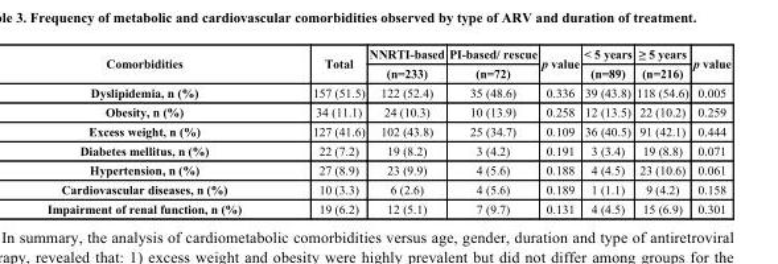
<table><thead><tr><td rowspan="2">Comorbidities</td><td rowspan="2">Total</td><td rowspan="2">NNRTI-based (n=233)</td><td rowspan="2">PI-based/ rescue (n=72)</td><td rowspan="2">p value</td><td rowspan="2">&lt; 5 years (n=89)</td><td rowspan="2">≥ 5 years (n=216)</td><td rowspan="2">p value</td></tr><tr></tr></thead><tbody><tr><td>Dyslipidemia, n (%)</td><td>157 (51.5)</td><td>122 (52.4)</td><td>35 (48.6)</td><td>0.336</td><td>39 (43.8)</td><td>118 (54.6)</td><td>0.005</td></tr><tr><td>Obesity, n (%)</td><td>34 (11.1)</td><td>24 (10.3)</td><td>10 (13.9)</td><td>0.258</td><td>12 (13.5)</td><td>22 (10.2)</td><td>0.259</td></tr><tr><td>Excess weight, n (%)</td><td>127 (41.6)</td><td>102 (43.8)</td><td>25 (34.7)</td><td>0.109</td><td>36 (40.5)</td><td>91 (42.1)</td><td>0.444</td></tr><tr><td>Diabetes mellitus, n (%)</td><td>22 (7.2)</td><td>19 (8.2)</td><td>3 (4.2)</td><td>0.191</td><td>3 (3.4)</td><td>19 (8.8)</td><td>0.071</td></tr><tr><td>Hypertension, n (%)</td><td>27 (8.9)</td><td>23 (9.9)</td><td>4 (5.6)</td><td>0.188</td><td>4 (4.5)</td><td>23 (10.6)</td><td>0.061</td></tr><tr><td>Cardiovascular diseases, n (%)</td><td>10 (3.3)</td><td>6 (2.6)</td><td>4 (5.6)</td><td>0.189</td><td>1 (1.1)</td><td>9 (4.2)</td><td>0.158</td></tr><tr><td>Impairment of renal function, n (%)</td><td>19 (6.2)</td><td>12 (5.1)</td><td>7 (9.7)</td><td>0.131</td><td>4 (4.5)</td><td>15 (6.9)</td><td>0.301</td></tr></tbody></table>